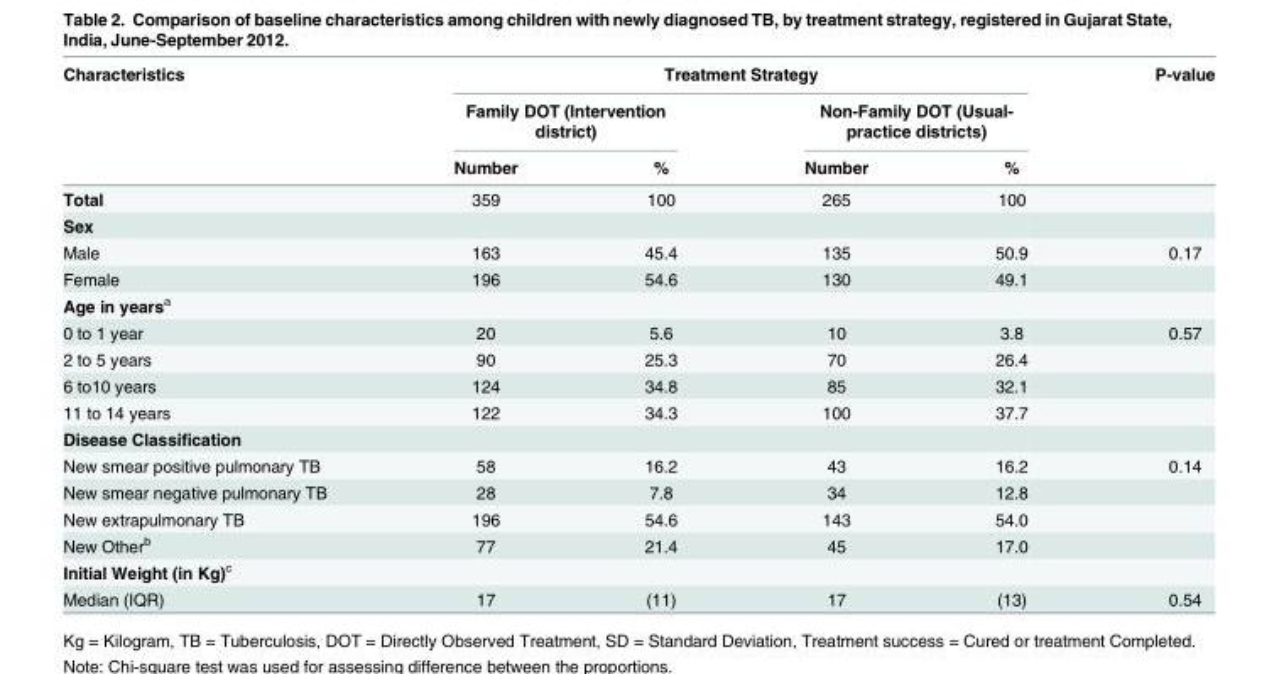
<table><thead><tr><td rowspan="3">Characteristics</td><td colspan="4">Treatment Strategy</td><td rowspan="3">P-value</td></tr><tr><td colspan="2">Family DOT (Intervention district)</td><td colspan="2">Non-Family DOT (Usual- practice districts)</td></tr><tr><td>Number</td><td>%</td><td>Number</td><td>%</td></tr></thead><tbody><tr><td>Total</td><td>359</td><td>100</td><td>265</td><td>100</td><td></td></tr><tr><td colspan="6">Sex</td></tr><tr><td>Male</td><td>163</td><td>45.4</td><td>135</td><td>50.9</td><td>0.17</td></tr><tr><td>Female</td><td>196</td><td>54.6</td><td>130</td><td>49.1</td><td></td></tr><tr><td colspan="6">Age in years<sup>a</sup></td></tr><tr><td>0 to 1 year</td><td>20</td><td>5.6</td><td>10</td><td>3.8</td><td>0.57</td></tr><tr><td>2 to 5 years</td><td>90</td><td>25.3</td><td>70</td><td>26.4</td><td></td></tr><tr><td>6 to10 years</td><td>124</td><td>34.8</td><td>85</td><td>32.1</td><td></td></tr><tr><td>11 to 14 years</td><td>122</td><td>34.3</td><td>100</td><td>37.7</td><td></td></tr><tr><td colspan="6">Disease Classification</td></tr><tr><td>New smear positive pulmonary TB</td><td>58</td><td>16.2</td><td>43</td><td>16.2</td><td>0.14</td></tr><tr><td>New smear negative pulmonary TB</td><td>28</td><td>7.8</td><td>34</td><td>12.8</td><td></td></tr><tr><td>New extrapulmonary TB</td><td>196</td><td>54.6</td><td>143</td><td>54.0</td><td></td></tr><tr><td>New Other<sup>b</sup></td><td>77</td><td>21.4</td><td>45</td><td>17.0</td><td></td></tr><tr><td colspan="6">Initial Weight (in Kg)<sup>c</sup></td></tr><tr><td>Median (IQR)</td><td>17</td><td>(11)</td><td>17</td><td>(13)</td><td>0.54</td></tr></tbody></table>